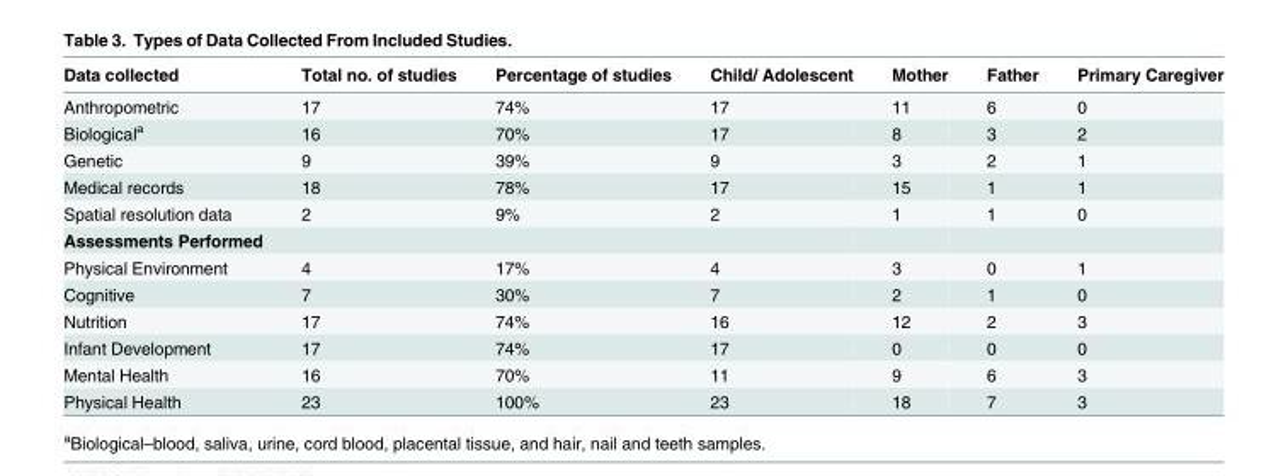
<table><thead><tr><td>Data collected</td><td>Total no. of studies</td><td>Percentage of studies</td><td>Child/ Adolescent</td><td>Mother</td><td>Father</td><td>Primary Caregiver</td></tr></thead><tbody><tr><td>Anthropometric</td><td>17</td><td>74%</td><td>17</td><td>11</td><td>6</td><td>0</td></tr><tr><td>Biological<sup>a</sup></td><td>16</td><td>70%</td><td>17</td><td>8</td><td>3</td><td>2</td></tr><tr><td>Genetic</td><td>9</td><td>39%</td><td>9</td><td>3</td><td>2</td><td>1</td></tr><tr><td>Medical records</td><td>18</td><td>78%</td><td>17</td><td>15</td><td>1</td><td>1</td></tr><tr><td>Spatial resolution data</td><td>2</td><td>9%</td><td>2</td><td>1</td><td>1</td><td>0</td></tr><tr><td colspan="7">Assessments Performed</td></tr><tr><td>Physical Environment</td><td>4</td><td>17%</td><td>4</td><td>3</td><td>0</td><td>1</td></tr><tr><td>Cognitive</td><td>7</td><td>30%</td><td>7</td><td>2</td><td>1</td><td>0</td></tr><tr><td>Nutrition</td><td>17</td><td>74%</td><td>16</td><td>12</td><td>2</td><td>3</td></tr><tr><td>Infant Development</td><td>17</td><td>74%</td><td>17</td><td>0</td><td>0</td><td>0</td></tr><tr><td>Mental Health</td><td>16</td><td>70%</td><td>11</td><td>9</td><td>6</td><td>3</td></tr><tr><td>Physical Health</td><td>23</td><td>100%</td><td>23</td><td>18</td><td>7</td><td>3</td></tr></tbody></table>